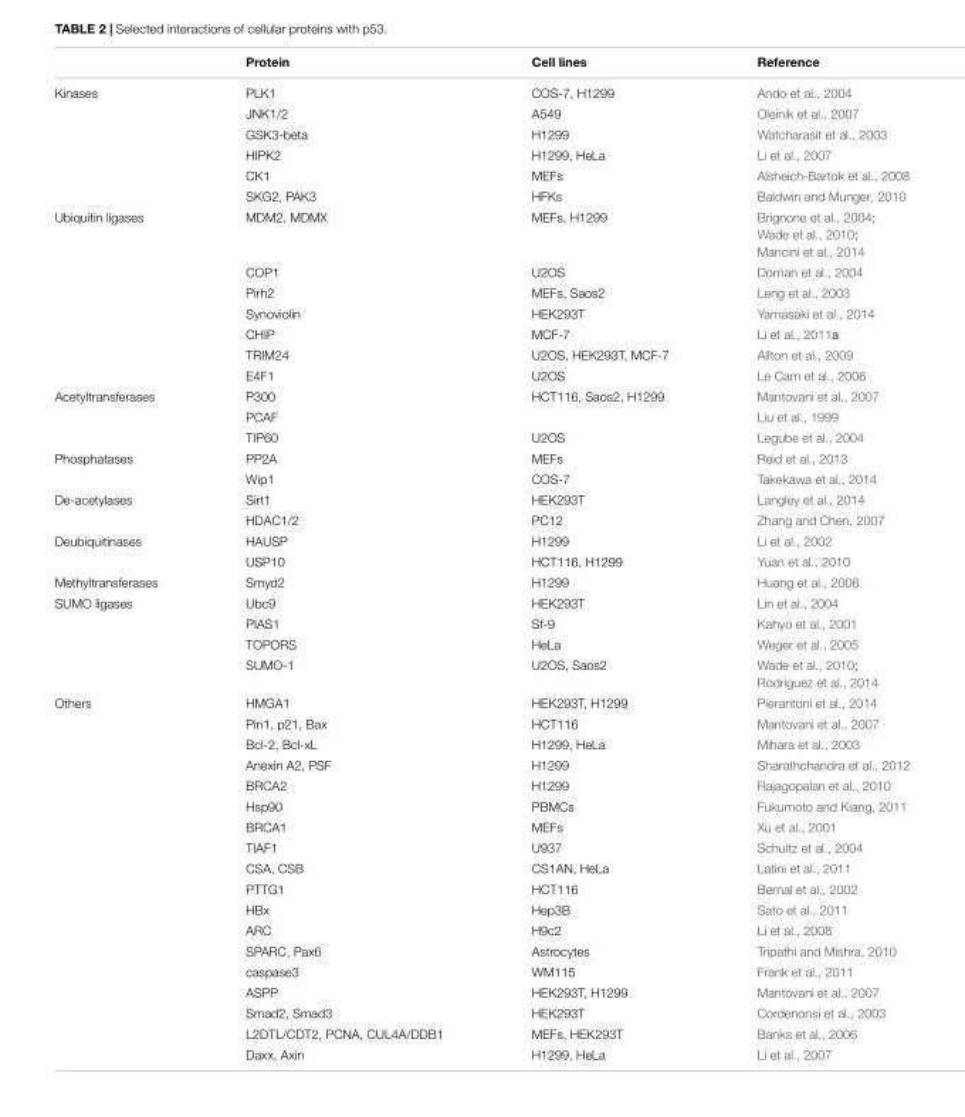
<table><thead><tr><td></td><td>Protein</td><td>Cell lines</td><td>Reference</td></tr></thead><tbody><tr><td rowspan="6">Kinases</td><td>PLK1</td><td>COS-7, H1299</td><td>Ando et al., 2004</td></tr><tr><td>JNK1/2</td><td>A549</td><td>Oleinik et al., 2007</td></tr><tr><td>GSK3-beta</td><td>H1299</td><td>Watcharasit et al., 2003</td></tr><tr><td>HIPK2</td><td>H1299, HeLa</td><td>Li et al., 2007</td></tr><tr><td>CK1</td><td>MEFs</td><td>Alsheich-Bartok et al., 2008</td></tr><tr><td>SKG2, PAK3</td><td>HFKs</td><td>Baldwin and Munger, 2010</td></tr><tr><td rowspan="7">Ubiquitin ligases</td><td>MDM2, MDMX</td><td>MEFs, H1299</td><td>Brignone et al., 2004; Wade et al., 2010; Mancini et al., 2014</td></tr><tr><td>COP1</td><td>U2OS</td><td>Dornan et al., 2004</td></tr><tr><td>Pirh2</td><td>MEFs, Saos2</td><td>Leng et al., 2003</td></tr><tr><td>Synoviolin</td><td>HEK293T</td><td>Yamasaki et al., 2014</td></tr><tr><td>CHIP</td><td>MCF-7</td><td>Li et al., 2011a</td></tr><tr><td>TRIM24</td><td>U2OS, HEK293T, MCF-7</td><td>Allton et al., 2009</td></tr><tr><td>E4F1</td><td>U2OS</td><td>Le Cam et al., 2006</td></tr><tr><td rowspan="3">Acetyltransferases</td><td>P300</td><td>HCT116, Saos2, H1299</td><td>Mantovani et al., 2007</td></tr><tr><td>PCAF</td><td></td><td>Liu et al., 1999</td></tr><tr><td>TIP60</td><td>U2OS</td><td>Legube et al., 2004</td></tr><tr><td rowspan="2">Phosphatases</td><td>PP2A</td><td>MEFs</td><td>Reid et al., 2013</td></tr><tr><td>Wip1</td><td>COS-7</td><td>Takekawa et al., 2014</td></tr><tr><td rowspan="2">De-acetylases</td><td>Sirt1</td><td>HEK293T</td><td>Langley et al., 2014</td></tr><tr><td>HDAC1/2</td><td>PC12</td><td>Zhang and Chen, 2007</td></tr><tr><td rowspan="2">Deubiquitinases</td><td>HAUSP</td><td>H1299</td><td>Li et al., 2002</td></tr><tr><td>USP10</td><td>HCT116, H1299</td><td>Yuan et al., 2010</td></tr><tr><td>Methyltransferases</td><td>Smyd2</td><td>H1299</td><td>Huang et al., 2006</td></tr><tr><td rowspan="4">SUMO ligases</td><td>Ubc9</td><td>HEK293T</td><td>Lin et al., 2004</td></tr><tr><td>PIAS1</td><td>Sf-9</td><td>Kahyo et al., 2001</td></tr><tr><td>TOPORS</td><td>HeLa</td><td>Weger et al., 2005</td></tr><tr><td>SUMO-1</td><td>U2OS, Saos2</td><td>Wade et al., 2010; Rodriguez et al., 2014</td></tr><tr><td rowspan="18">Others</td><td>HMGA1</td><td>HEK293T, H1299</td><td>Pierantoni et al., 2014</td></tr><tr><td>Pin1, p21, Bax</td><td>HCT116</td><td>Mantovani et al., 2007</td></tr><tr><td>Bcl-2, Bcl-xL</td><td>H1299, HeLa</td><td>Mihara et al., 2003</td></tr><tr><td>Anexin A2, PSF</td><td>H1299</td><td>Sharathchandra et al., 2012</td></tr><tr><td>BRCA2</td><td>H1299</td><td>Rajagopalan et al., 2010</td></tr><tr><td>Hsp90</td><td>PBMCs</td><td>Fukumoto and Kiang, 2011</td></tr><tr><td>BRCA1</td><td>MEFs</td><td>Xu et al., 2001</td></tr><tr><td>TIAF1</td><td>U937</td><td>Schultz et al., 2004</td></tr><tr><td>CSA, CSB</td><td>CS1AN, HeLa</td><td>Latini et al., 2011</td></tr><tr><td>PTTG1</td><td>HCT116</td><td>Bernal et al., 2002</td></tr><tr><td>HBx</td><td>Hep3B</td><td>Sato et al., 2011</td></tr><tr><td>ARC</td><td>H9c2</td><td>Li et al., 2008</td></tr><tr><td>SPARC, Pax6</td><td>Astrocytes</td><td>Tripathi and Mishra, 2010</td></tr><tr><td>caspase3</td><td>WM115</td><td>Frank et al., 2011</td></tr><tr><td>ASPP</td><td>HEK293T, H1299</td><td>Mantovani et al., 2007</td></tr><tr><td>Smad2, Smad3</td><td>HEK293T</td><td>Cordenonsi et al., 2003</td></tr><tr><td>L2DTL/CDT2, PCNA, CUL4A/DDB1</td><td>MEFs, HEK293T</td><td>Banks et al., 2006</td></tr><tr><td>Daxx, Axin</td><td>H1299, HeLa</td><td>Li et al., 2007</td></tr></tbody></table>